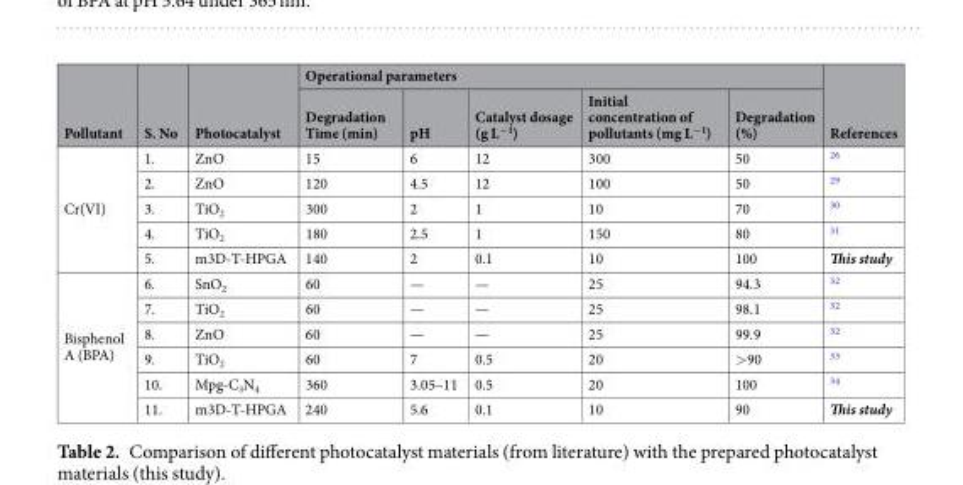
<table><thead><tr><td rowspan="2">Pollutant</td><td rowspan="2">S. No</td><td rowspan="2">Photocatalyst</td><td colspan="5">Operational parameters</td><td rowspan="2">References</td></tr><tr><td>Degradation Time (min)</td><td>pH</td><td>Catalyst dosage (g L<sup>−1</sup>)</td><td>Initial concentration of pollutants (mg L<sup>−1</sup>)</td><td>Degradation (%)</td></tr></thead><tbody><tr><td rowspan="5">Cr(VI)</td><td>1.</td><td>ZnO</td><td>15</td><td>6</td><td>12</td><td>300</td><td>50</td><td><sup>26</sup></td></tr><tr><td>2.</td><td>ZnO</td><td>120</td><td>4.5</td><td>12</td><td>100</td><td>50</td><td><sup>29</sup></td></tr><tr><td>3.</td><td>TiO<sub>2</sub></td><td>300</td><td>2</td><td>1</td><td>10</td><td>70</td><td><sup>30</sup></td></tr><tr><td>4.</td><td>TiO<sub>2</sub></td><td>180</td><td>2.5</td><td>1</td><td>150</td><td>80</td><td><sup>31</sup></td></tr><tr><td>5.</td><td>m3D-T-HPGA</td><td>140</td><td>2</td><td>0.1</td><td>10</td><td>100</td><td>This study</td></tr><tr><td rowspan="6">Bisphenol A (BPA)</td><td>6.</td><td>SnO<sub>2</sub></td><td>60</td><td>—</td><td>—</td><td>25</td><td>94.3</td><td><sup>32</sup></td></tr><tr><td>7.</td><td>TiO<sub>2</sub></td><td>60</td><td>—</td><td>—</td><td>25</td><td>98.1</td><td><sup>32</sup></td></tr><tr><td>8.</td><td>ZnO</td><td>60</td><td>—</td><td>—</td><td>25</td><td>99.9</td><td><sup>32</sup></td></tr><tr><td>9.</td><td>TiO<sub>2</sub></td><td>60</td><td>7</td><td>0.5</td><td>20</td><td>&gt;90</td><td><sup>33</sup></td></tr><tr><td>10.</td><td>Mpg-C<sub>3</sub>N<sub>4</sub></td><td>360</td><td>3.05–11</td><td>0.5</td><td>20</td><td>100</td><td><sup>34</sup></td></tr><tr><td>11.</td><td>m3D-T-HPGA</td><td>240</td><td>5.6</td><td>0.1</td><td>10</td><td>90</td><td>This study</td></tr></tbody></table>